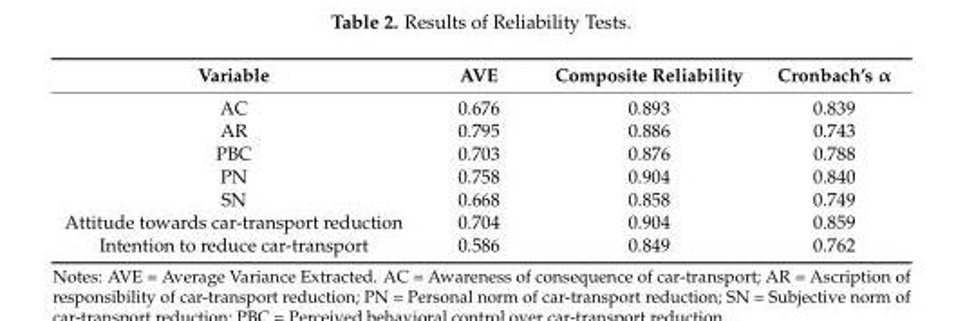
<table><thead><tr><td>Variable</td><td>AVE</td><td>Composite Reliability</td><td>Cronbach’s α</td></tr></thead><tbody><tr><td>AC</td><td>0.676</td><td>0.893</td><td>0.839</td></tr><tr><td>AR</td><td>0.795</td><td>0.886</td><td>0.743</td></tr><tr><td>PBC</td><td>0.703</td><td>0.876</td><td>0.788</td></tr><tr><td>PN</td><td>0.758</td><td>0.904</td><td>0.840</td></tr><tr><td>SN</td><td>0.668</td><td>0.858</td><td>0.749</td></tr><tr><td>Attitude towards car-transport reduction</td><td>0.704</td><td>0.904</td><td>0.859</td></tr><tr><td>Intention to reduce car-transport</td><td>0.586</td><td>0.849</td><td>0.762</td></tr></tbody></table>